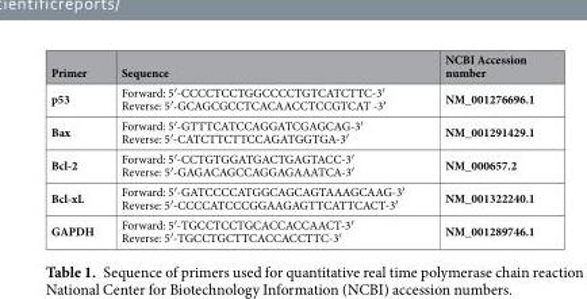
<table><thead><tr><td>Primer</td><td>Sequence</td><td>NCBI Accession number</td></tr></thead><tbody><tr><td>p53</td><td>Forward: 5′-CCCCTCCTGGCCCCTGTCATCTTC-3′ Reverse: 5′-GCAGCGCCTCACAACCTCCGTCAT -3′</td><td>NM_001276696.1</td></tr><tr><td>Bax</td><td>Forward: 5′-GTTTCATCCAGGATCGAGCAG-3′ Reverse: 5′-CATCTTCTTCCAGATGGTGA-3′</td><td>NM_001291429.1</td></tr><tr><td>Bcl-2</td><td>Forward: 5′-CCTGTGGATGACTGAGTACC-3′ Reverse: 5′-GAGACAGCCAGGAGAAATCA-3′</td><td>NM_000657.2</td></tr><tr><td>Bcl-xL</td><td>Forward: 5′-GATCCCCATGGCAGCAGTAAAGCAAG-3′ Reverse: 5′-CCCCATCCCGGAAGAGTTCATTCACT-3′</td><td>NM_001322240.1</td></tr><tr><td>GAPDH</td><td>Forward: 5′-TGCCTCCTGCACCACCAACT-3′ Reverse: 5′-TGCCTGCTTCACCACCTTC-3′</td><td>NM_001289746.1</td></tr></tbody></table>